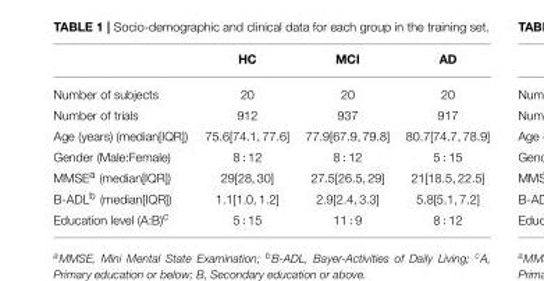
<table><thead><tr><td></td><td>HC</td><td>MCI</td><td>AD</td></tr></thead><tbody><tr><td>Number of subjects</td><td>20</td><td>20</td><td>20</td></tr><tr><td>Number of trials</td><td>912</td><td>937</td><td>917</td></tr><tr><td>Age (years) (median[IQR])</td><td>75.6[74.1, 77.6]</td><td>77.9[67.9, 79.8]</td><td>80.7[74.7, 78.9]</td></tr><tr><td>Gender (Male:Female)</td><td>8 : 12</td><td>8 : 12</td><td>5 : 15</td></tr><tr><td>MMSE<sup>a</sup> (median[IQR])</td><td>29[28, 30]</td><td>27.5[26.5, 29]</td><td>21[18.5, 22.5]</td></tr><tr><td>B-ADL<sup>b</sup> (median[IQR])</td><td>1.1[1.0, 1.2]</td><td>2.9[2.4, 3.3]</td><td>5.8[5.1, 7.2]</td></tr><tr><td>Education level (A:B)<sup>c</sup></td><td>5 : 15</td><td>11 : 9</td><td>8 : 12</td></tr></tbody></table>